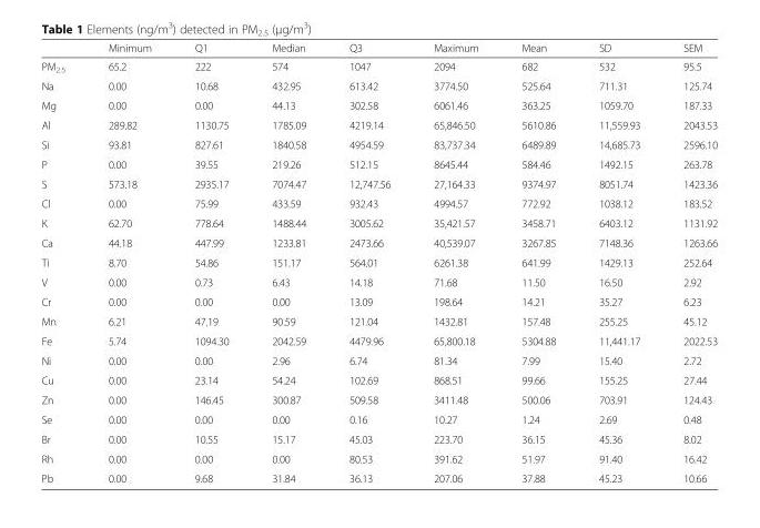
<table><thead><tr><td></td><td>Minimum</td><td>Q1</td><td>Median</td><td>Q3</td><td>Maximum</td><td>Mean</td><td>SD</td><td>SEM</td></tr></thead><tbody><tr><td>PM<sub>2.5</sub></td><td>65.2</td><td>222</td><td>574</td><td>1047</td><td>2094</td><td>682</td><td>532</td><td>95.5</td></tr><tr><td>Na</td><td>0.00</td><td>10.68</td><td>432.95</td><td>613.42</td><td>3774.50</td><td>525.64</td><td>711.31</td><td>125.74</td></tr><tr><td>Mg</td><td>0.00</td><td>0.00</td><td>44.13</td><td>302.58</td><td>6061.46</td><td>363.25</td><td>1059.70</td><td>187.33</td></tr><tr><td>Al</td><td>289.82</td><td>1130.75</td><td>1785.09</td><td>4219.14</td><td>65,846.50</td><td>5610.86</td><td>11,559.93</td><td>2043.53</td></tr><tr><td>Si</td><td>93.81</td><td>827.61</td><td>1840.58</td><td>4954.59</td><td>83,737.34</td><td>6489.89</td><td>14,685.73</td><td>2596.10</td></tr><tr><td>P</td><td>0.00</td><td>39.55</td><td>219.26</td><td>512.15</td><td>8645.44</td><td>584.46</td><td>1492.15</td><td>263.78</td></tr><tr><td>S</td><td>573.18</td><td>2935.17</td><td>7074.47</td><td>12,747.56</td><td>27,164.33</td><td>9374.97</td><td>8051.74</td><td>1423.36</td></tr><tr><td>Cl</td><td>0.00</td><td>75.99</td><td>433.59</td><td>932.43</td><td>4994.57</td><td>772.92</td><td>1038.12</td><td>183.52</td></tr><tr><td>K</td><td>62.70</td><td>778.64</td><td>1488.44</td><td>3005.62</td><td>35,421.57</td><td>3458.71</td><td>6403.12</td><td>1131.92</td></tr><tr><td>Ca</td><td>44.18</td><td>447.99</td><td>1233.81</td><td>2473.66</td><td>40,539.07</td><td>3267.85</td><td>7148.36</td><td>1263.66</td></tr><tr><td>Ti</td><td>8.70</td><td>54.86</td><td>151.17</td><td>564.01</td><td>6261.38</td><td>641.99</td><td>1429.13</td><td>252.64</td></tr><tr><td>V</td><td>0.00</td><td>0.73</td><td>6.43</td><td>14.18</td><td>71.68</td><td>11.50</td><td>16.50</td><td>2.92</td></tr><tr><td>Cr</td><td>0.00</td><td>0.00</td><td>0.00</td><td>13.09</td><td>198.64</td><td>14.21</td><td>35.27</td><td>6.23</td></tr><tr><td>Mn</td><td>6.21</td><td>47.19</td><td>90.59</td><td>121.04</td><td>1432.81</td><td>157.48</td><td>255.25</td><td>45.12</td></tr><tr><td>Fe</td><td>5.74</td><td>1094.30</td><td>2042.59</td><td>4479.96</td><td>65,800.18</td><td>5304.88</td><td>11,441.17</td><td>2022.53</td></tr><tr><td>Ni</td><td>0.00</td><td>0.00</td><td>2.96</td><td>6.74</td><td>81.34</td><td>7.99</td><td>15.40</td><td>2.72</td></tr><tr><td>Cu</td><td>0.00</td><td>23.14</td><td>54.24</td><td>102.69</td><td>868.51</td><td>99.66</td><td>155.25</td><td>27.44</td></tr><tr><td>Zn</td><td>0.00</td><td>146.45</td><td>300.87</td><td>509.58</td><td>3411.48</td><td>500.06</td><td>703.91</td><td>124.43</td></tr><tr><td>Se</td><td>0.00</td><td>0.00</td><td>0.00</td><td>0.16</td><td>10.27</td><td>1.24</td><td>2.69</td><td>0.48</td></tr><tr><td>Br</td><td>0.00</td><td>10.55</td><td>15.17</td><td>45.03</td><td>223.70</td><td>36.15</td><td>45.36</td><td>8.02</td></tr><tr><td>Rh</td><td>0.00</td><td>0.00</td><td>0.00</td><td>80.53</td><td>391.62</td><td>51.97</td><td>91.40</td><td>16.42</td></tr><tr><td>Pb</td><td>0.00</td><td>9.68</td><td>31.84</td><td>36.13</td><td>207.06</td><td>37.88</td><td>45.23</td><td>10.66</td></tr></tbody></table>